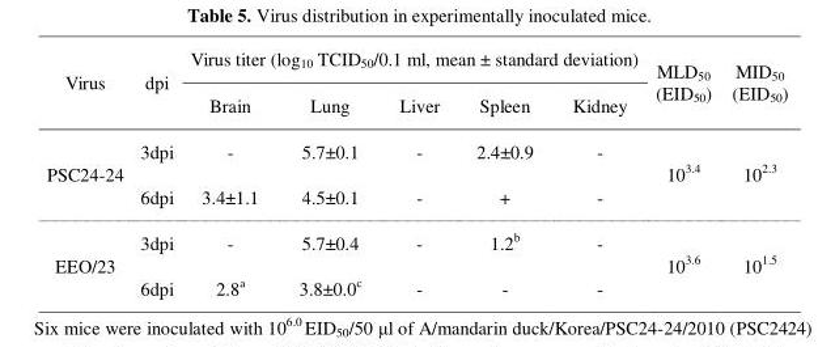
<table><thead><tr><td rowspan="2">Virus</td><td rowspan="2">dpi</td><td colspan="5">Virus titer (log<sub>10</sub> TCID<sub>50</sub>/0.1 ml, mean ± standard deviation)</td><td rowspan="2">MLD<sub>50</sub> (EID<sub>50</sub>)</td><td rowspan="2">MID<sub>50</sub> (EID<sub>50</sub>)</td></tr><tr><td>Brain</td><td>Lung</td><td>Liver</td><td>Spleen</td><td>Kidney</td></tr></thead><tbody><tr><td rowspan="2">PSC24-24</td><td>3dpi</td><td>-</td><td>5.7±0.1</td><td>-</td><td>2.4±0.9</td><td>-</td><td rowspan="2">10<sup>3.4</sup></td><td rowspan="2">10<sup>2.3</sup></td></tr><tr><td>6dpi</td><td>3.4±1.1</td><td>4.5±0.1</td><td>-</td><td>+</td><td>-</td></tr><tr><td rowspan="2">EEO/23</td><td>3dpi</td><td>-</td><td>5.7±0.4</td><td>-</td><td>1.2<sup>b</sup></td><td>-</td><td rowspan="2">10<sup>3.6</sup></td><td rowspan="2">10<sup>1.5</sup></td></tr><tr><td>6dpi</td><td>2.8<sup>a</sup></td><td>3.8±0.0<sup>c</sup></td><td>-</td><td>-</td><td>-</td></tr></tbody></table>